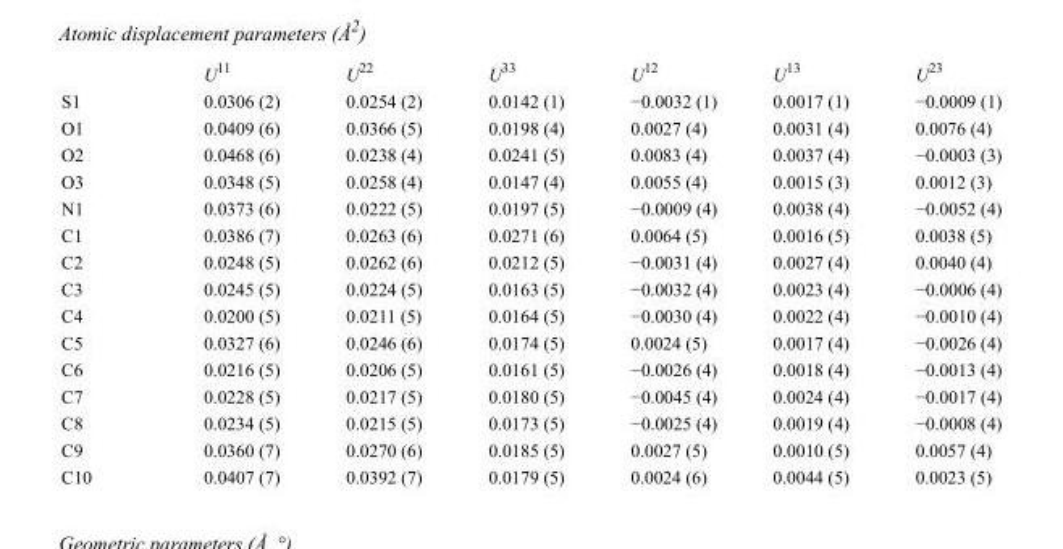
<table><thead><tr><td></td><td>U<sup>11</sup></td><td>U<sup>22</sup></td><td>U<sup>33</sup></td><td>U<sup>12</sup></td><td>U<sup>13</sup></td><td>U<sup>23</sup></td></tr></thead><tbody><tr><td>S1</td><td>0.0306 (2)</td><td>0.0254 (2)</td><td>0.0142 (1)</td><td>−0.0032 (1)</td><td>0.0017 (1)</td><td>−0.0009 (1)</td></tr><tr><td>O1</td><td>0.0409 (6)</td><td>0.0366 (5)</td><td>0.0198 (4)</td><td>0.0027 (4)</td><td>0.0031 (4)</td><td>0.0076 (4)</td></tr><tr><td>O2</td><td>0.0468 (6)</td><td>0.0238 (4)</td><td>0.0241 (5)</td><td>0.0083 (4)</td><td>0.0037 (4)</td><td>−0.0003 (3)</td></tr><tr><td>O3</td><td>0.0348 (5)</td><td>0.0258 (4)</td><td>0.0147 (4)</td><td>0.0055 (4)</td><td>0.0015 (3)</td><td>0.0012 (3)</td></tr><tr><td>N1</td><td>0.0373 (6)</td><td>0.0222 (5)</td><td>0.0197 (5)</td><td>−0.0009 (4)</td><td>0.0038 (4)</td><td>−0.0052 (4)</td></tr><tr><td>C1</td><td>0.0386 (7)</td><td>0.0263 (6)</td><td>0.0271 (6)</td><td>0.0064 (5)</td><td>0.0016 (5)</td><td>0.0038 (5)</td></tr><tr><td>C2</td><td>0.0248 (5)</td><td>0.0262 (6)</td><td>0.0212 (5)</td><td>−0.0031 (4)</td><td>0.0027 (4)</td><td>0.0040 (4)</td></tr><tr><td>C3</td><td>0.0245 (5)</td><td>0.0224 (5)</td><td>0.0163 (5)</td><td>−0.0032 (4)</td><td>0.0023 (4)</td><td>−0.0006 (4)</td></tr><tr><td>C4</td><td>0.0200 (5)</td><td>0.0211 (5)</td><td>0.0164 (5)</td><td>−0.0030 (4)</td><td>0.0022 (4)</td><td>−0.0010 (4)</td></tr><tr><td>C5</td><td>0.0327 (6)</td><td>0.0246 (6)</td><td>0.0174 (5)</td><td>0.0024 (5)</td><td>0.0017 (4)</td><td>−0.0026 (4)</td></tr><tr><td>C6</td><td>0.0216 (5)</td><td>0.0206 (5)</td><td>0.0161 (5)</td><td>−0.0026 (4)</td><td>0.0018 (4)</td><td>−0.0013 (4)</td></tr><tr><td>C7</td><td>0.0228 (5)</td><td>0.0217 (5)</td><td>0.0180 (5)</td><td>−0.0045 (4)</td><td>0.0024 (4)</td><td>−0.0017 (4)</td></tr><tr><td>C8</td><td>0.0234 (5)</td><td>0.0215 (5)</td><td>0.0173 (5)</td><td>−0.0025 (4)</td><td>0.0019 (4)</td><td>−0.0008 (4)</td></tr><tr><td>C9</td><td>0.0360 (7)</td><td>0.0270 (6)</td><td>0.0185 (5)</td><td>0.0027 (5)</td><td>0.0010 (5)</td><td>0.0057 (4)</td></tr><tr><td>C10</td><td>0.0407 (7)</td><td>0.0392 (7)</td><td>0.0179 (5)</td><td>0.0024 (6)</td><td>0.0044 (5)</td><td>0.0023 (5)</td></tr></tbody></table>